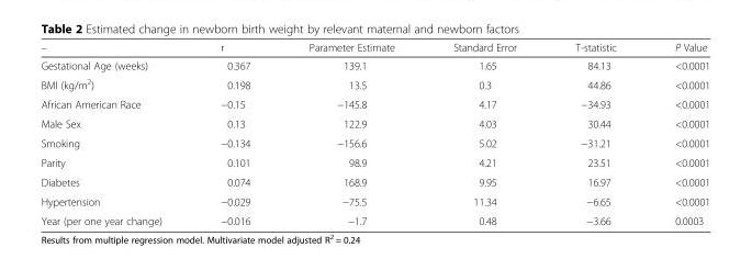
<table><thead><tr><td>–</td><td>r</td><td>Parameter Estimate</td><td>Standard Error</td><td>T-statistic</td><td>P Value</td></tr></thead><tbody><tr><td>Gestational Age (weeks)</td><td>0.367</td><td>139.1</td><td>1.65</td><td>84.13</td><td>&lt;0.0001</td></tr><tr><td>BMI (kg/m<sup>2</sup>)</td><td>0.198</td><td>13.5</td><td>0.3</td><td>44.86</td><td>&lt;0.0001</td></tr><tr><td>African American Race</td><td>−0.15</td><td>−145.8</td><td>4.17</td><td>−34.93</td><td>&lt;0.0001</td></tr><tr><td>Male Sex</td><td>0.13</td><td>122.9</td><td>4.03</td><td>30.44</td><td>&lt;0.0001</td></tr><tr><td>Smoking</td><td>−0.134</td><td>−156.6</td><td>5.02</td><td>−31.21</td><td>&lt;0.0001</td></tr><tr><td>Parity</td><td>0.101</td><td>98.9</td><td>4.21</td><td>23.51</td><td>&lt;0.0001</td></tr><tr><td>Diabetes</td><td>0.074</td><td>168.9</td><td>9.95</td><td>16.97</td><td>&lt;0.0001</td></tr><tr><td>Hypertension</td><td>−0.029</td><td>−75.5</td><td>11.34</td><td>−6.65</td><td>&lt;0.0001</td></tr><tr><td>Year (per one year change)</td><td>−0.016</td><td>−1.7</td><td>0.48</td><td>−3.66</td><td>0.0003</td></tr></tbody></table>